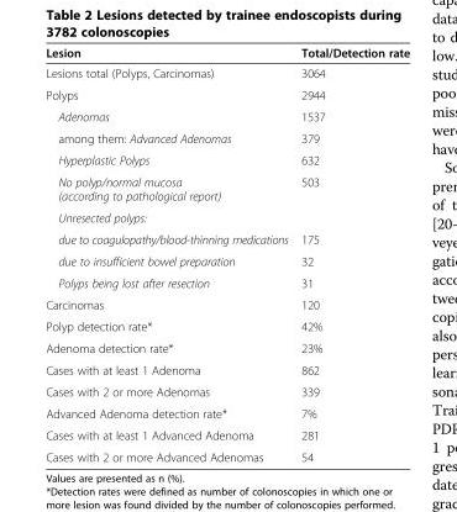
<table><thead><tr><td>Lesion</td><td>Total/Detection rate</td></tr></thead><tbody><tr><td>Lesions total (Polyps, Carcinomas)</td><td>3064</td></tr><tr><td>Polyps</td><td>2944</td></tr><tr><td>Adenomas</td><td>1537</td></tr><tr><td>among them: Advanced Adenomas</td><td>379</td></tr><tr><td>Hyperplastic Polyps</td><td>632</td></tr><tr><td>No polyp/normal mucosa (according to pathological report)</td><td>503</td></tr><tr><td colspan="2">Unresected polyps:</td></tr><tr><td>due to coagulopathy/blood-thinning medications</td><td>175</td></tr><tr><td>due to insufficient bowel preparation</td><td>32</td></tr><tr><td>Polyps being lost after resection</td><td>31</td></tr><tr><td>Carcinomas</td><td>120</td></tr><tr><td>Polyp detection rate*</td><td>42%</td></tr><tr><td>Adenoma detection rate*</td><td>23%</td></tr><tr><td>Cases with at least 1 Adenoma</td><td>862</td></tr><tr><td>Cases with 2 or more Adenomas</td><td>339</td></tr><tr><td>Advanced Adenoma detection rate*</td><td>7%</td></tr><tr><td>Cases with at least 1 Advanced Adenoma</td><td>281</td></tr><tr><td>Cases with 2 or more Advanced Adenomas</td><td>54</td></tr></tbody></table>